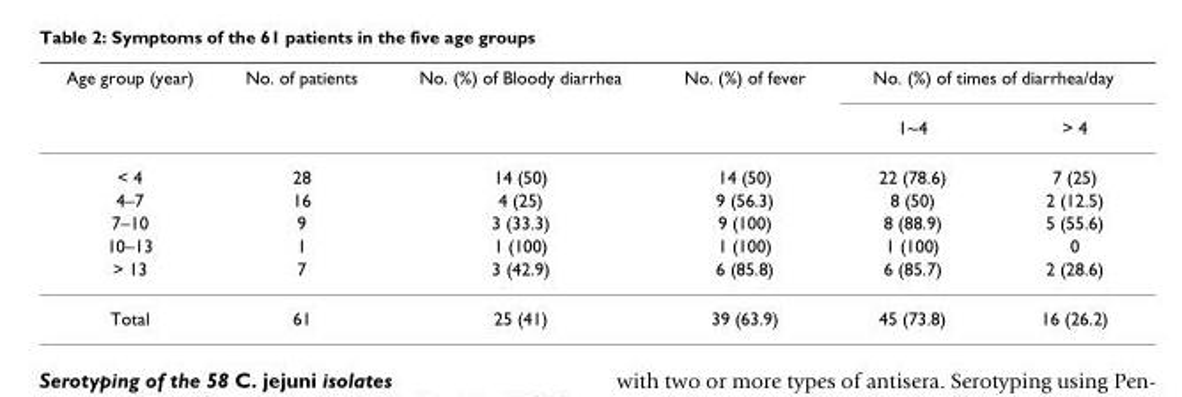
<table><thead><tr><td rowspan="2">Age group (year)</td><td rowspan="2">No. of patients</td><td rowspan="2">No. (%) of Bloody diarrhea</td><td rowspan="2">No. (%) of fever</td><td colspan="2">No. (%) of times of diarrhea/day</td></tr><tr><td>1~4</td><td>&gt; 4</td></tr></thead><tbody><tr><td>&lt; 4</td><td>28</td><td>14 (50)</td><td>14 (50)</td><td>22 (78.6)</td><td>7 (25)</td></tr><tr><td>4–7</td><td>16</td><td>4 (25)</td><td>9 (56.3)</td><td>8 (50)</td><td>2 (12.5)</td></tr><tr><td>7–10</td><td>9</td><td>3 (33.3)</td><td>9 (100)</td><td>8 (88.9)</td><td>5 (55.6)</td></tr><tr><td>10–13</td><td>1</td><td>1 (100)</td><td>1 (100)</td><td>1 (100)</td><td>0</td></tr><tr><td>&gt; 13</td><td>7</td><td>3 (42.9)</td><td>6 (85.8)</td><td>6 (85.7)</td><td>2 (28.6)</td></tr><tr><td>Total</td><td>61</td><td>25 (41)</td><td>39 (63.9)</td><td>45 (73.8)</td><td>16 (26.2)</td></tr></tbody></table>